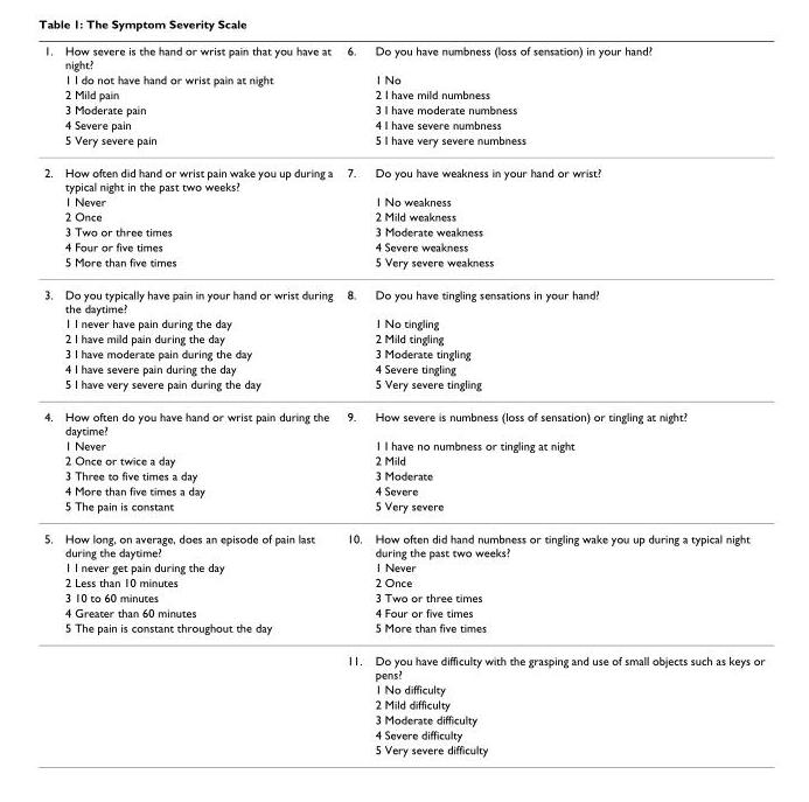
<table><thead><tr><td rowspan="6">1.</td><td rowspan="6">How severe is the hand or wrist pain that you have at night? 1 I do not have hand or wrist pain at night 2 Mild pain 3 Moderate pain 4 Severe pain 5 Very severe pain</td><td rowspan="6">6.</td><td rowspan="6">Do you have numbness (loss of sensation) in your hand? 1 No 2 I have mild numbness 3 I have moderate numbness 4 I have severe numbness 5 I have very severe numbness</td></tr><tr></tr><tr></tr><tr></tr><tr></tr><tr></tr></thead><tbody><tr><td rowspan="6">2.</td><td>How often did hand or wrist pain wake you up during a typical night in the past two weeks?</td><td>7.</td><td>Do you have weakness in your hand or wrist?</td></tr><tr><td>1 Never</td><td></td><td>1 No weakness</td></tr><tr><td>2 Once</td><td></td><td>2 Mild weakness</td></tr><tr><td>3 Two or three times</td><td></td><td>3 Moderate weakness</td></tr><tr><td>4 Four or five times</td><td></td><td>4 Severe weakness</td></tr><tr><td>5 More than five times</td><td></td><td>5 Very severe weakness</td></tr><tr><td rowspan="6">3.</td><td>Do you typically have pain in your hand or wrist during the daytime?</td><td>8.</td><td>Do you have tingling sensations in your hand?</td></tr><tr><td>1 I never have pain during the day</td><td></td><td>1 No tingling</td></tr><tr><td>2 I have mild pain during the day</td><td></td><td>2 Mild tingling</td></tr><tr><td>3 I have moderate pain during the day</td><td></td><td>3 Moderate tingling</td></tr><tr><td>4 I have severe pain during the day</td><td></td><td>4 Severe tingling</td></tr><tr><td>5 I have very severe pain during the day</td><td></td><td>5 Very severe tingling</td></tr><tr><td rowspan="6">4.</td><td>How often do you have hand or wrist pain during the daytime?</td><td>9.</td><td>How severe is numbness (loss of sensation) or tingling at night?</td></tr><tr><td>1 Never</td><td></td><td>1 I have no numbness or tingling at night</td></tr><tr><td>2 Once or twice a day</td><td></td><td>2 Mild</td></tr><tr><td>3 Three to five times a day</td><td></td><td>3 Moderate</td></tr><tr><td>4 More than five times a day</td><td></td><td>4 Severe</td></tr><tr><td>5 The pain is constant</td><td></td><td>5 Very severe</td></tr><tr><td rowspan="12">5.</td><td>How long, on average, does an episode of pain last during the daytime?</td><td>10.</td><td>How often did hand numbness or tingling wake you up during a typical night during the past two weeks?</td></tr><tr><td>1 I never get pain during the day</td><td></td><td>1 Never</td></tr><tr><td>2 Less than 10 minutes</td><td></td><td>2 Once</td></tr><tr><td>3 10 to 60 minutes</td><td></td><td>3 Two or three times</td></tr><tr><td>4 Greater than 60 minutes</td><td></td><td>4 Four or five times</td></tr><tr><td>5 The pain is constant throughout the day</td><td></td><td>5 More than five times</td></tr><tr><td></td><td>11.</td><td>Do you have difficulty with the grasping and use of small objects such as keys or pens?</td></tr><tr><td></td><td></td><td>1 No difficulty</td></tr><tr><td></td><td></td><td>2 Mild difficulty</td></tr><tr><td></td><td></td><td>3 Moderate difficulty</td></tr><tr><td></td><td></td><td>4 Severe difficulty</td></tr><tr><td></td><td></td><td>5 Very severe difficulty</td></tr></tbody></table>